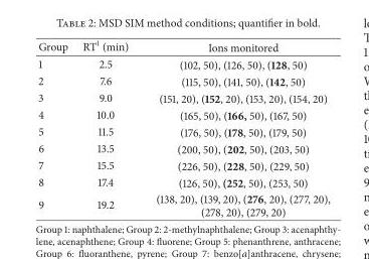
<table><thead><tr><td>Group</td><td>RT<sup>1</sup> (min)</td><td>Ions monitored</td></tr></thead><tbody><tr><td>1</td><td>2.5</td><td>(102, 50), (126, 50), (128, 50)</td></tr><tr><td>2</td><td>7.6</td><td>(115, 50), (141, 50), (142, 50)</td></tr><tr><td>3</td><td>9.0</td><td>(151, 20), (152, 20), (153, 20), (154, 20)</td></tr><tr><td>4</td><td>10.0</td><td>(165, 50), (166, 50), (167, 50)</td></tr><tr><td>5</td><td>11.5</td><td>(176, 50), (178, 50), (179, 50)</td></tr><tr><td>6</td><td>13.5</td><td>(200, 50), (202, 50), (203, 50)</td></tr><tr><td>7</td><td>15.5</td><td>(226, 50), (228, 50), (229, 50)</td></tr><tr><td>8</td><td>17.4</td><td>(126, 50), (252, 50), (253, 50)</td></tr><tr><td>9</td><td>19.2</td><td>(138, 20), (139, 20), (276, 20), (277, 20), (278, 20), (279, 20)</td></tr></tbody></table>